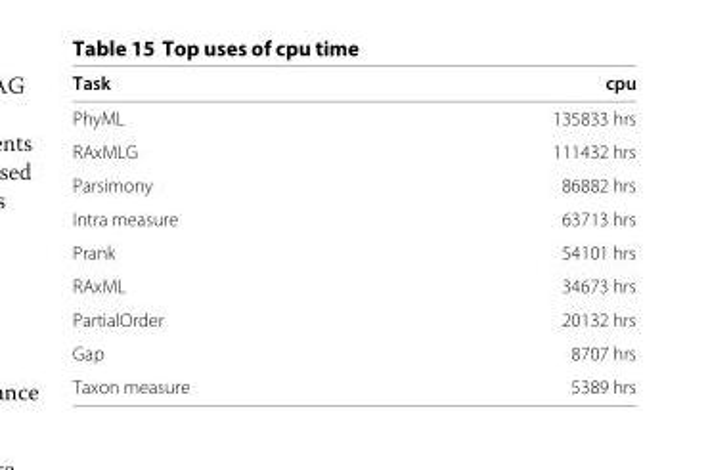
<table><thead><tr><td>Task</td><td>cpu</td></tr></thead><tbody><tr><td>PhyML</td><td>135833 hrs</td></tr><tr><td>RAxMLG</td><td>111432 hrs</td></tr><tr><td>Parsimony</td><td>86882 hrs</td></tr><tr><td>Intra measure</td><td>63713 hrs</td></tr><tr><td>Prank</td><td>54101 hrs</td></tr><tr><td>RAxML</td><td>34673 hrs</td></tr><tr><td>PartialOrder</td><td>20132 hrs</td></tr><tr><td>Gap</td><td>8707 hrs</td></tr><tr><td>Taxon measure</td><td>5389 hrs</td></tr></tbody></table>